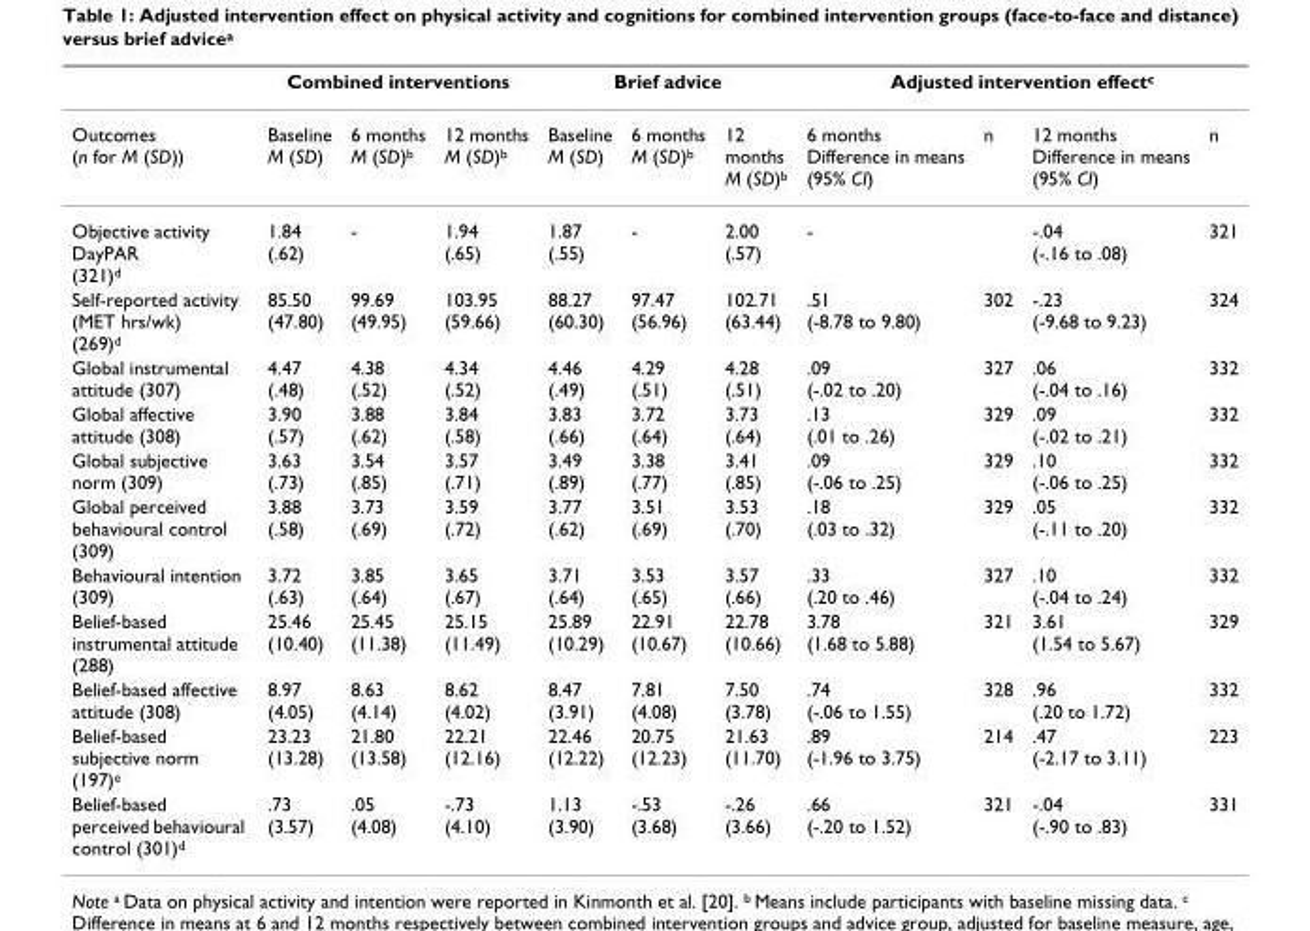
<table><thead><tr><td rowspan="2">Outcomes (n for M (SD))</td><td colspan="3">Combined interventions</td><td colspan="3">Brief advice</td><td colspan="4">Adjusted intervention effect<sup>c</sup></td></tr><tr><td>Baseline M (SD)</td><td>6 months M (SD)<sup>b</sup></td><td>12 months M (SD)<sup>b</sup></td><td>Baseline M (SD)</td><td>6 months M (SD)<sup>b</sup></td><td>12 months M (SD)<sup>b</sup></td><td>6 months Difference in means (95% CI)</td><td>n</td><td>12 months Difference in means (95% CI)</td><td>n</td></tr></thead><tbody><tr><td>Objective activity DayPAR (321)<sup>d</sup></td><td>1.84 (.62)</td><td>-</td><td>1.94 (.65)</td><td>1.87 (.55)</td><td>-</td><td>2.00 (.57)</td><td>-</td><td></td><td>-.04 (-.16 to .08)</td><td>321</td></tr><tr><td>Self-reported activity (MET hrs/wk) (269)<sup>d</sup></td><td>85.50 (47.80)</td><td>99.69 (49.95)</td><td>103.95 (59.66)</td><td>88.27 (60.30)</td><td>97.47 (56.96)</td><td>102.71 (63.44)</td><td>.51 (-8.78 to 9.80)</td><td>302</td><td>-.23 (-9.68 to 9.23)</td><td>324</td></tr><tr><td>Global instrumental attitude (307)</td><td>4.47 (.48)</td><td>4.38 (.52)</td><td>4.34 (.52)</td><td>4.46 (.49)</td><td>4.29 (.51)</td><td>4.28 (.51)</td><td>.09 (-.02 to .20)</td><td>327</td><td>.06 (-.04 to .16)</td><td>332</td></tr><tr><td>Global affective attitude (308)</td><td>3.90 (.57)</td><td>3.88 (.62)</td><td>3.84 (.58)</td><td>3.83 (.66)</td><td>3.72 (.64)</td><td>3.73 (.64)</td><td>.13 (.01 to .26)</td><td>329</td><td>.09 (-.02 to .21)</td><td>332</td></tr><tr><td>Global subjective norm (309)</td><td>3.63 (.73)</td><td>3.54 (.85)</td><td>3.57 (.71)</td><td>3.49 (.89)</td><td>3.38 (.77)</td><td>3.41 (.85)</td><td>.09 (-.06 to .25)</td><td>329</td><td>.10 (-.06 to .25)</td><td>332</td></tr><tr><td>Global perceived behavioural control (309)</td><td>3.88 (.58)</td><td>3.73 (.69)</td><td>3.59 (.72)</td><td>3.77 (.62)</td><td>3.51 (.69)</td><td>3.53 (.70)</td><td>.18 (.03 to .32)</td><td>329</td><td>.05 (-.11 to .20)</td><td>332</td></tr><tr><td>Behavioural intention (309)</td><td>3.72 (.63)</td><td>3.85 (.64)</td><td>3.65 (.67)</td><td>3.71 (.64)</td><td>3.53 (.65)</td><td>3.57 (.66)</td><td>.33 (.20 to .46)</td><td>327</td><td>.10 (-.04 to .24)</td><td>332</td></tr><tr><td>Belief-based instrumental attitude (288)</td><td>25.46 (10.40)</td><td>25.45 (11.38)</td><td>25.15 (11.49)</td><td>25.89 (10.29)</td><td>22.91 (10.67)</td><td>22.78 (10.66)</td><td>3.78 (1.68 to 5.88)</td><td>321</td><td>3.61 (1.54 to 5.67)</td><td>329</td></tr><tr><td>Belief-based affective attitude (308)</td><td>8.97 (4.05)</td><td>8.63 (4.14)</td><td>8.62 (4.02)</td><td>8.47 (3.91)</td><td>7.81 (4.08)</td><td>7.50 (3.78)</td><td>.74 (-.06 to 1.55)</td><td>328</td><td>.96 (.20 to 1.72)</td><td>332</td></tr><tr><td>Belief-based subjective norm (197)<sup>e</sup></td><td>23.23 (13.28)</td><td>21.80 (13.58)</td><td>22.21 (12.16)</td><td>22.46 (12.22)</td><td>20.75 (12.23)</td><td>21.63 (11.70)</td><td>.89 (-1.96 to 3.75)</td><td>214</td><td>.47 (-2.17 to 3.11)</td><td>223</td></tr><tr><td>Belief-based perceived behavioural control (301)<sup>d</sup></td><td>.73 (3.57)</td><td>.05 (4.08)</td><td>-.73 (4.10)</td><td>1.13 (3.90)</td><td>-.53 (3.68)</td><td>-.26 (3.66)</td><td>.66 (-.20 to 1.52)</td><td>321</td><td>-.04 (-.90 to .83)</td><td>331</td></tr></tbody></table>